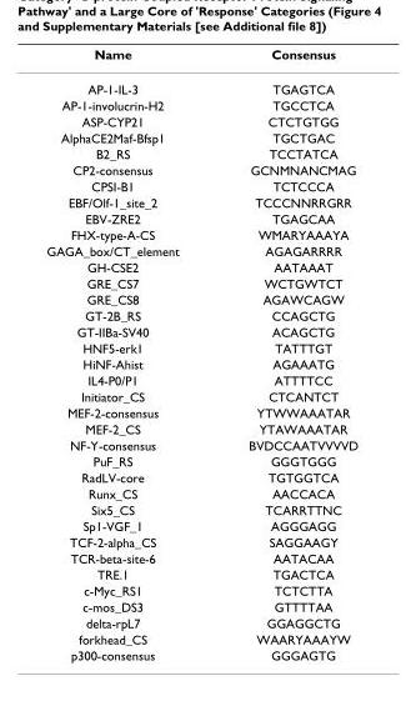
<table><thead><tr><td>Name</td><td>Consensus</td></tr></thead><tbody><tr><td>AP-1-IL-3</td><td>TGAGTCA</td></tr><tr><td>AP-1-involucrin-H2</td><td>TGCCTCA</td></tr><tr><td>ASP-CYP21</td><td>CTCTGTGG</td></tr><tr><td>AlphaCE2Maf-Bfsp1</td><td>TGCTGAC</td></tr><tr><td>B2_RS</td><td>TCCTATCA</td></tr><tr><td>CP2-consensus</td><td>GCNMNANCMAG</td></tr><tr><td>CPSI-B1</td><td>TCTCCCA</td></tr><tr><td>EBF/Olf-1_site_2</td><td>TCCCNNRRGRR</td></tr><tr><td>EBV-ZRE2</td><td>TGAGCAA</td></tr><tr><td>FHX-type-A-CS</td><td>WMARYAAAYA</td></tr><tr><td>GAGA_box/CT_element</td><td>AGAGARRRR</td></tr><tr><td>GH-CSE2</td><td>AATAAAT</td></tr><tr><td>GRE_CS7</td><td>WCTGWTCT</td></tr><tr><td>GRE_CS8</td><td>AGAWCAGW</td></tr><tr><td>GT-2B_RS</td><td>CCAGCTG</td></tr><tr><td>GT-IIBa-SV40</td><td>ACAGCTG</td></tr><tr><td>HNF5-erk1</td><td>TATTTGT</td></tr><tr><td>HiNF-Ahist</td><td>AGAAATG</td></tr><tr><td>IL4-P0/P1</td><td>ATTTTCC</td></tr><tr><td>Initiator_CS</td><td>CTCANTCT</td></tr><tr><td>MEF-2-consensus</td><td>YTWWAAATAR</td></tr><tr><td>MEF-2_CS</td><td>YTAWAAATAR</td></tr><tr><td>NF-Y-consensus</td><td>BVDCCAATVVVVD</td></tr><tr><td>PuF_RS</td><td>GGGTGGG</td></tr><tr><td>RadLV-core</td><td>TGTGGTCA</td></tr><tr><td>Runx_CS</td><td>AACCACA</td></tr><tr><td>Six5_CS</td><td>TCARRTTNC</td></tr><tr><td>Sp1-VGF_1</td><td>AGGGAGG</td></tr><tr><td>TCF-2-alpha_CS</td><td>SAGGAAGY</td></tr><tr><td>TCR-beta-site-6</td><td>AATACAA</td></tr><tr><td>TRE.1</td><td>TGACTCA</td></tr><tr><td>c-Myc_RS1</td><td>TCTCTTA</td></tr><tr><td>c-mos_DS3</td><td>GTTTTAA</td></tr><tr><td>delta-rpL7</td><td>GGAGGCTG</td></tr><tr><td>forkhead_CS</td><td>WAARYAAAYW</td></tr><tr><td>p300-consensus</td><td>GGGAGTG</td></tr></tbody></table>